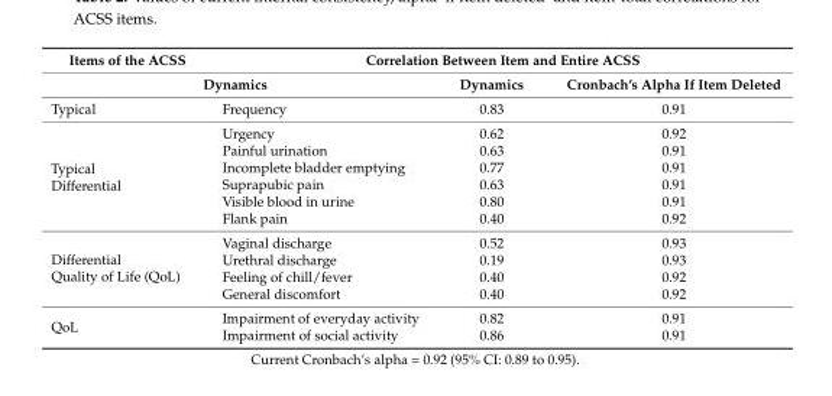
<table><thead><tr><td>Items of the ACSS</td><td colspan="3">Correlation Between Item and Entire ACSS</td></tr><tr><td colspan="2">Dynamics</td><td rowspan="2">Dynamics 0.83</td><td rowspan="2">Cronbach’s Alpha If Item Deleted 0.91</td></tr><tr><td>Typical</td><td>Frequency</td></tr></thead><tbody><tr><td rowspan="6">Typical Differential</td><td>Urgency</td><td>0.62</td><td>0.92</td></tr><tr><td>Painful urination</td><td>0.63</td><td>0.91</td></tr><tr><td>Incomplete bladder emptying</td><td>0.77</td><td>0.91</td></tr><tr><td>Suprapubic pain</td><td>0.63</td><td>0.91</td></tr><tr><td>Visible blood in urine</td><td>0.80</td><td>0.91</td></tr><tr><td>Flank pain</td><td>0.40</td><td>0.92</td></tr><tr><td rowspan="4">Differential Quality of Life (QoL)</td><td>Vaginal discharge</td><td>0.52</td><td>0.93</td></tr><tr><td>Urethral discharge</td><td>0.19</td><td>0.93</td></tr><tr><td>Feeling of chill/fever</td><td>0.40</td><td>0.92</td></tr><tr><td>General discomfort</td><td>0.40</td><td>0.92</td></tr><tr><td rowspan="2">QoL</td><td>Impairment of everyday activity</td><td>0.82</td><td>0.91</td></tr><tr><td>Impairment of social activity</td><td>0.86</td><td>0.91</td></tr></tbody></table>